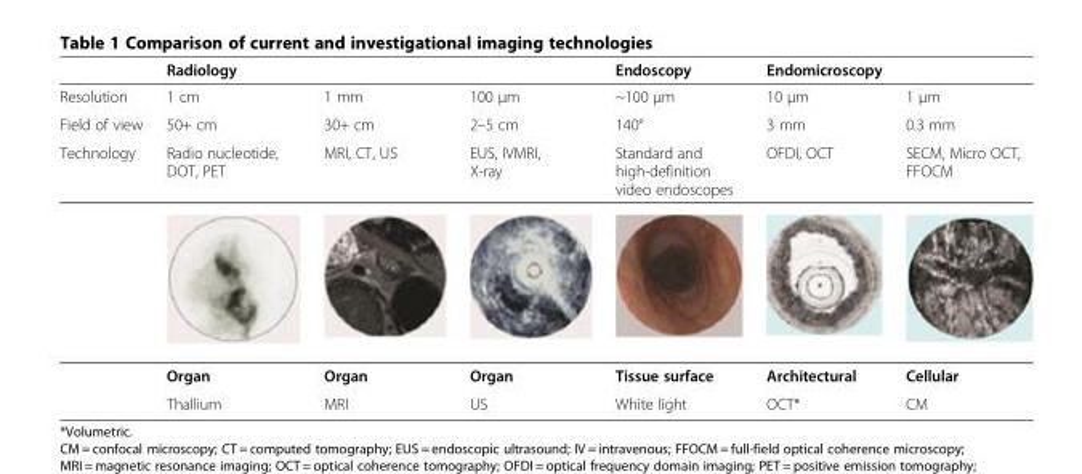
<table><thead><tr><td rowspan="2">Resolution</td><td colspan="3">Radiology</td><td rowspan="2">Endoscopy ~100 μm</td><td colspan="2">Endomicroscopy</td></tr><tr><td>1 cm</td><td>1 mm</td><td>100 μm</td><td>10 μm</td><td>1 μm</td></tr></thead><tbody><tr><td>Field of view</td><td>50+ cm</td><td>30+ cm</td><td>2–5 cm</td><td>140°</td><td>3 mm</td><td>0.3 mm</td></tr><tr><td rowspan="3">Technology</td><td>Radio nucleotide, DOT, PET</td><td>MRI, CT, US</td><td>EUS, IVMRI, X-ray</td><td>Standard and high-definition video endoscopes</td><td>OFDI, OCT</td><td>SECM, Micro OCT, FFOCM</td></tr><tr><td>Organ</td><td>Organ</td><td>Organ</td><td>Tissue surface</td><td>Architectural</td><td>Cellular</td></tr><tr><td>Thallium</td><td>MRI</td><td>US</td><td>White light</td><td>OCT*</td><td>CM</td></tr></tbody></table>